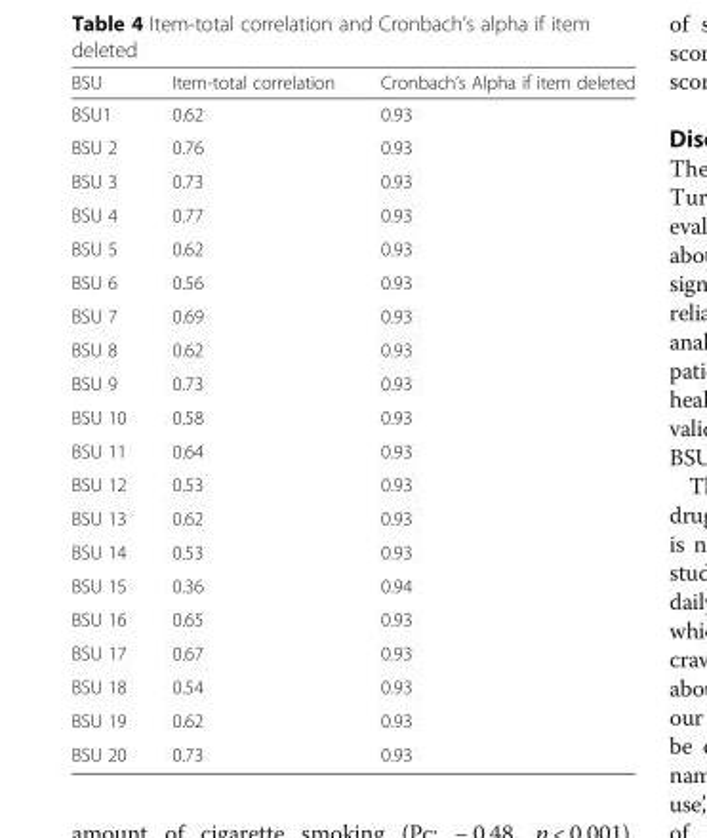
<table><thead><tr><td>BSU</td><td>Item-total correlation</td><td>Cronbach’s Alpha if item deleted</td></tr></thead><tbody><tr><td>BSU1</td><td>0.62</td><td>0.93</td></tr><tr><td>BSU 2</td><td>0.76</td><td>0.93</td></tr><tr><td>BSU 3</td><td>0.73</td><td>0.93</td></tr><tr><td>BSU 4</td><td>0.77</td><td>0.93</td></tr><tr><td>BSU 5</td><td>0.62</td><td>0.93</td></tr><tr><td>BSU 6</td><td>0.56</td><td>0.93</td></tr><tr><td>BSU 7</td><td>0.69</td><td>0.93</td></tr><tr><td>BSU 8</td><td>0.62</td><td>0.93</td></tr><tr><td>BSU 9</td><td>0.73</td><td>0.93</td></tr><tr><td>BSU 10</td><td>0.58</td><td>0.93</td></tr><tr><td>BSU 11</td><td>0.64</td><td>0.93</td></tr><tr><td>BSU 12</td><td>0.53</td><td>0.93</td></tr><tr><td>BSU 13</td><td>0.62</td><td>0.93</td></tr><tr><td>BSU 14</td><td>0.53</td><td>0.93</td></tr><tr><td>BSU 15</td><td>0.36</td><td>0.94</td></tr><tr><td>BSU 16</td><td>0.65</td><td>0.93</td></tr><tr><td>BSU 17</td><td>0.67</td><td>0.93</td></tr><tr><td>BSU 18</td><td>0.54</td><td>0.93</td></tr><tr><td>BSU 19</td><td>0.62</td><td>0.93</td></tr><tr><td>BSU 20</td><td>0.73</td><td>0.93</td></tr></tbody></table>